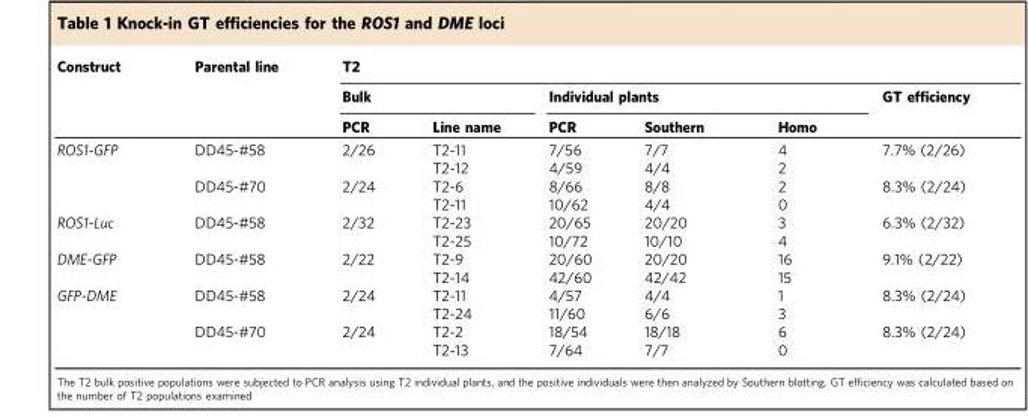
<table><thead><tr><td rowspan="3">Construct</td><td rowspan="3">Parental line</td><td colspan="6">T2</td></tr><tr><td colspan="2">Bulk</td><td colspan="3">Individual plants</td><td rowspan="2">GT efficiency</td></tr><tr><td>PCR</td><td>Line name</td><td>PCR</td><td>Southern</td><td>Homo</td></tr></thead><tbody><tr><td rowspan="4">ROS1-GFP</td><td rowspan="2">DD45-#58</td><td rowspan="2">2/26</td><td>T2-11</td><td>7/56</td><td>7/7</td><td>4</td><td rowspan="2">7.7% (2/26)</td></tr><tr><td>T2-12</td><td>4/59</td><td>4/4</td><td>2</td></tr><tr><td rowspan="2">DD45-#70</td><td rowspan="2">2/24</td><td>T2-6</td><td>8/66</td><td>8/8</td><td>2</td><td rowspan="2">8.3% (2/24)</td></tr><tr><td>T2-11</td><td>10/62</td><td>4/4</td><td>0</td></tr><tr><td rowspan="2">ROS1-Luc</td><td rowspan="2">DD45-#58</td><td rowspan="2">2/32</td><td>T2-23</td><td>20/65</td><td>20/20</td><td>3</td><td rowspan="2">6.3% (2/32)</td></tr><tr><td>T2-25</td><td>10/72</td><td>10/10</td><td>4</td></tr><tr><td rowspan="2">DME-GFP</td><td rowspan="2">DD45-#58</td><td rowspan="2">2/22</td><td>T2-9</td><td>20/60</td><td>20/20</td><td>16</td><td rowspan="2">9.1% (2/22)</td></tr><tr><td>T2-14</td><td>42/60</td><td>42/42</td><td>15</td></tr><tr><td rowspan="4">GFP-DME</td><td rowspan="2">DD45-#58</td><td rowspan="2">2/24</td><td>T2-11</td><td>4/57</td><td>4/4</td><td>1</td><td rowspan="2">8.3% (2/24)</td></tr><tr><td>T2-24</td><td>11/60</td><td>6/6</td><td>3</td></tr><tr><td rowspan="2">DD45-#70</td><td rowspan="2">2/24</td><td>T2-2</td><td>18/54</td><td>18/18</td><td>6</td><td rowspan="2">8.3% (2/24)</td></tr><tr><td>T2-13</td><td>7/64</td><td>7/7</td><td>0</td></tr></tbody></table>